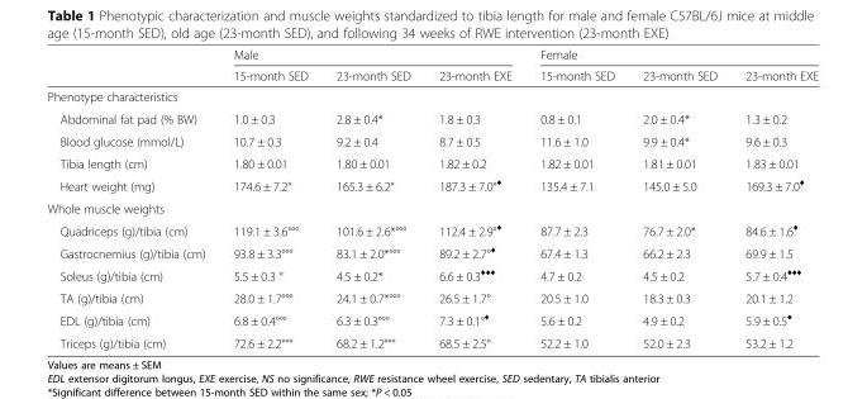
<table><thead><tr><td rowspan="2"></td><td colspan="3">Male</td><td colspan="3">Female</td></tr><tr><td>15-month SED</td><td>23-month SED</td><td>23-month EXE</td><td>15-month SED</td><td>23-month SED</td><td>23-month EXE</td></tr></thead><tbody><tr><td colspan="7">Phenotype characteristics</td></tr><tr><td>Abdominal fat pad (% BW)</td><td>1.0 ± 0.3</td><td>2.8 ± 0.4*</td><td>1.8 ± 0.3</td><td>0.8 ± 0.1</td><td>2.0 ± 0.4*</td><td>1.3 ± 0.2</td></tr><tr><td>Blood glucose (mmol/L)</td><td>10.7 ± 0.3</td><td>9.2 ± 0.4</td><td>8.7 ± 0.5</td><td>11.6 ± 1.0</td><td>9.9 ± 0.4*</td><td>9.6 ± 0.3</td></tr><tr><td>Tibia length (cm)</td><td>1.80 ± 0.01</td><td>1.80 ± 0.01</td><td>1.82 ± 0.2</td><td>1.82 ± 0.01</td><td>1.81 ± 0.01</td><td>1.83 ± 0.01</td></tr><tr><td>Heart weight (mg)</td><td>174.6 ± 7.2°</td><td>165.3 ± 6.2°</td><td>187.3 ± 7.0°<sup>♦</sup></td><td>135.4 ± 7.1</td><td>145.0 ± 5.0</td><td>169.3 ± 7.0<sup>♦</sup></td></tr><tr><td colspan="7">Whole muscle weights</td></tr><tr><td>Quadriceps (g)/tibia (cm)</td><td>119.1 ± 3.6°°°</td><td>101.6 ± 2.6*°°°</td><td>112.4 ± 2.9°<sup>♦</sup></td><td>87.7 ± 2.3</td><td>76.7 ± 2.0*</td><td>84.6 ± 1.6<sup>♦</sup></td></tr><tr><td>Gastrocnemius (g)/tibia (cm)</td><td>93.8 ± 3.3°°°</td><td>83.1 ± 2.0*°°°</td><td>89.2 ± 2.7°<sup>♦</sup></td><td>67.4 ± 1.3</td><td>66.2 ± 2.3</td><td>69.9 ± 1.5</td></tr><tr><td>Soleus (g)/tibia (cm)</td><td>5.5 ± 0.3 °</td><td>4.5 ± 0.2*</td><td>6.6 ± 0.3<sup>♦♦♦</sup></td><td>4.7 ± 0.2</td><td>4.5 ± 0.2</td><td>5.7 ± 0.4<sup>♦♦♦</sup></td></tr><tr><td>TA (g)/tibia (cm)</td><td>28.0 ± 1.7°°°</td><td>24.1 ± 0.7*°°°</td><td>26.5 ± 1.7°</td><td>20.5 ± 1.0</td><td>18.3 ± 0.3</td><td>20.1 ± 1.2</td></tr><tr><td>EDL (g)/tibia (cm)</td><td>6.8 ± 0.4°°°</td><td>6.3 ± 0.3°°°</td><td>7.3 ± 0.1°<sup>♦</sup></td><td>5.6 ± 0.2</td><td>4.9 ± 0.2</td><td>5.9 ± 0.5<sup>♦</sup></td></tr><tr><td>Triceps (g)/tibia (cm)</td><td>72.6 ± 2.2°°°</td><td>68.2 ± 1.2°°°</td><td>68.5 ± 2.5°</td><td>52.2 ± 1.0</td><td>52.0 ± 2.3</td><td>53.2 ± 1.2</td></tr></tbody></table>